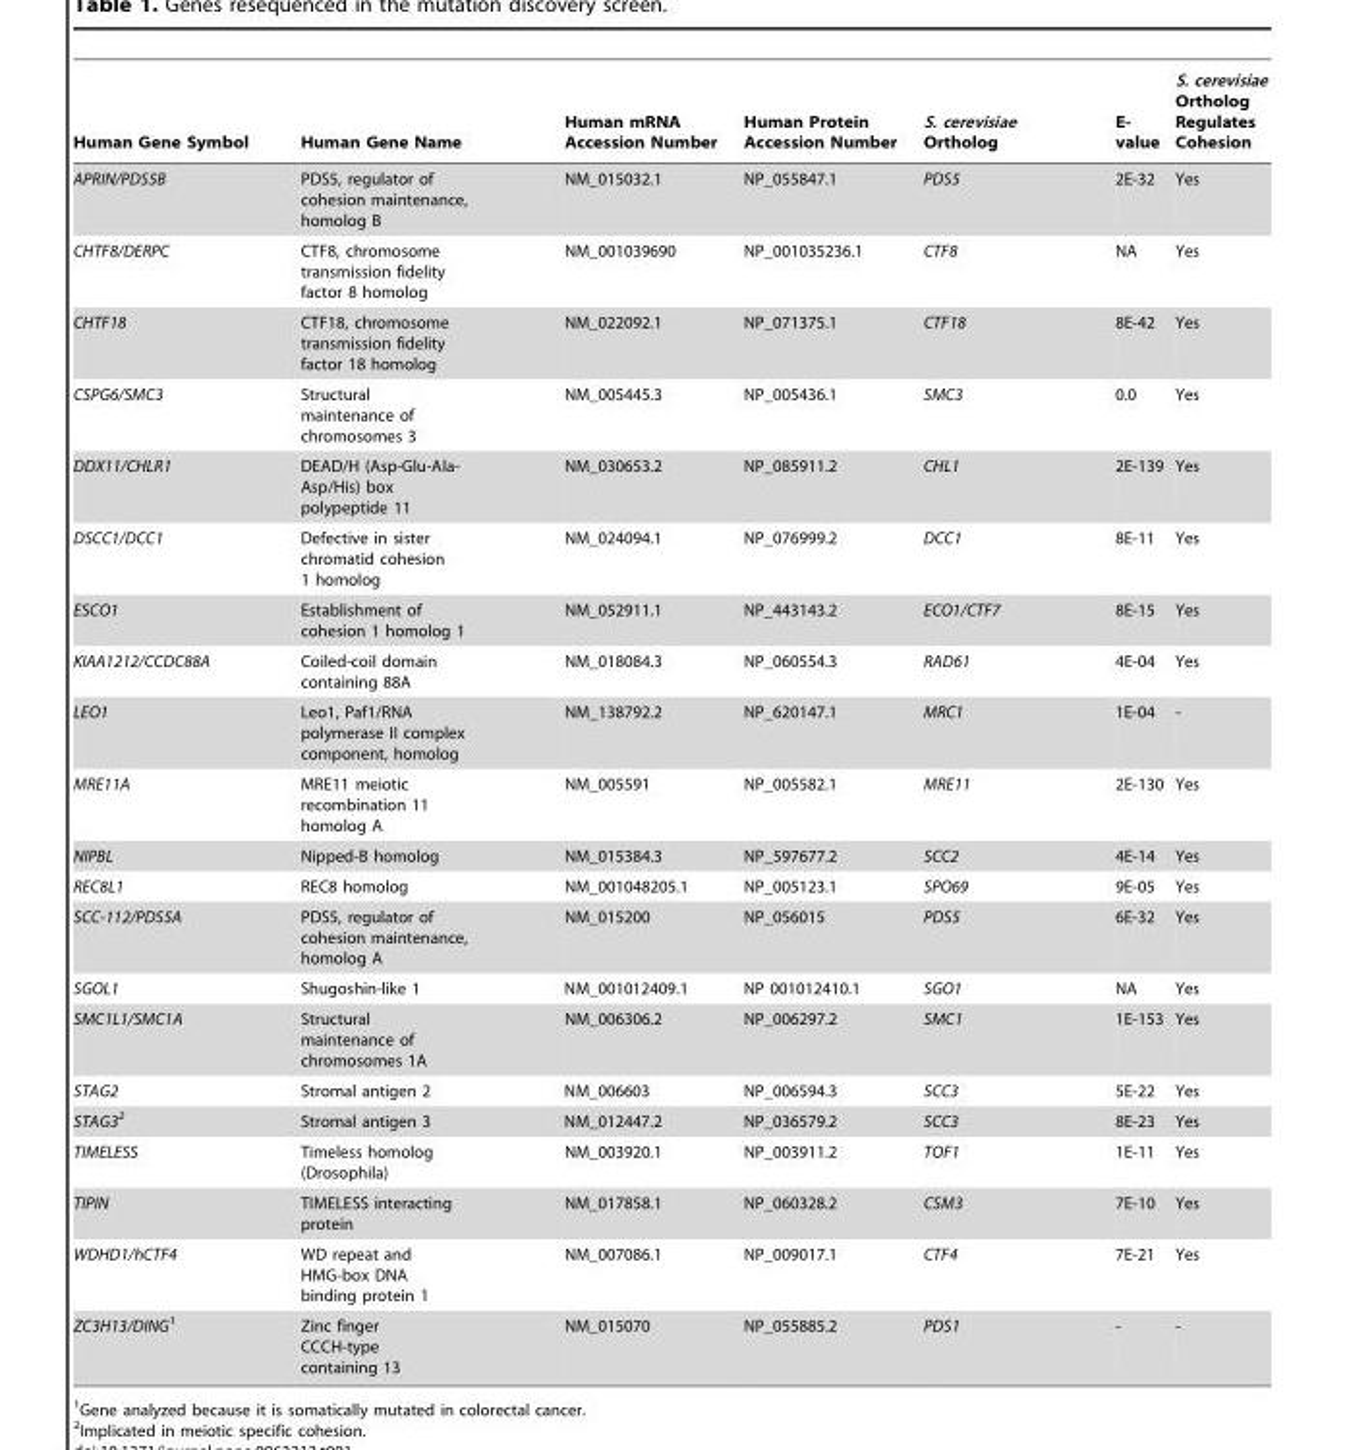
<table><thead><tr><td>Human Gene Symbol</td><td>Human Gene Name</td><td>Human mRNA Accession Number</td><td>Human Protein Accession Number</td><td>S. cerevisiae Ortholog</td><td>E- value</td><td>S. cerevisiae Ortholog Regulates Cohesion</td></tr></thead><tbody><tr><td>APRIN/PDS5B</td><td>PDS5, regulator of cohesion maintenance, homolog B</td><td>NM_015032.1</td><td>NP_055847.1</td><td>PDS5</td><td>2E-32</td><td>Yes</td></tr><tr><td>CHTF8/DERPC</td><td>CTF8, chromosome transmission fidelity factor 8 homolog</td><td>NM_001039690</td><td>NP_001035236.1</td><td>CTF8</td><td>NA</td><td>Yes</td></tr><tr><td>CHTF18</td><td>CTF18, chromosome transmission fidelity factor 18 homolog</td><td>NM_022092.1</td><td>NP_071375.1</td><td>CTF18</td><td>8E-42</td><td>Yes</td></tr><tr><td>CSPG6/SMC3</td><td>Structural maintenance of chromosomes 3</td><td>NM_005445.3</td><td>NP_005436.1</td><td>SMC3</td><td>0.0</td><td>Yes</td></tr><tr><td>DDX11/CHLR1</td><td>DEAD/H (Asp-Glu-Ala- Asp/His) box polypeptide 11</td><td>NM_030653.2</td><td>NP_085911.2</td><td>CHL1</td><td>2E-139</td><td>Yes</td></tr><tr><td>DSCC1/DCC1</td><td>Defective in sister chromatid cohesion 1 homolog</td><td>NM_024094.1</td><td>NP_076999.2</td><td>DCC1</td><td>8E-11</td><td>Yes</td></tr><tr><td>ESCO1</td><td>Establishment of cohesion 1 homolog 1</td><td>NM_052911.1</td><td>NP_443143.2</td><td>ECO1/CTF7</td><td>8E-15</td><td>Yes</td></tr><tr><td>KIAA1212/CCDC88A</td><td>Coiled-coil domain containing 88A</td><td>NM_018084.3</td><td>NP_060554.3</td><td>RAD61</td><td>4E-04</td><td>Yes</td></tr><tr><td>LEO1</td><td>Leo1, Paf1/RNA polymerase II complex component, homolog</td><td>NM_138792.2</td><td>NP_620147.1</td><td>MRC1</td><td>1E-04</td><td>-</td></tr><tr><td>MRE11A</td><td>MRE11 meiotic recombination 11 homolog A</td><td>NM_005591</td><td>NP_005582.1</td><td>MRE11</td><td>2E-130</td><td>Yes</td></tr><tr><td>NIPBL</td><td>Nipped-B homolog</td><td>NM_015384.3</td><td>NP_597677.2</td><td>SCC2</td><td>4E-14</td><td>Yes</td></tr><tr><td>REC8L1</td><td>REC8 homolog</td><td>NM_001048205.1</td><td>NP_005123.1</td><td>SPO69</td><td>9E-05</td><td>Yes</td></tr><tr><td>SCC-112/PDS5A</td><td>PDS5, regulator of cohesion maintenance, homolog A</td><td>NM_015200</td><td>NP_056015</td><td>PDS5</td><td>6E-32</td><td>Yes</td></tr><tr><td>SGOL1</td><td>Shugoshin-like 1</td><td>NM_001012409.1</td><td>NP 001012410.1</td><td>SGO1</td><td>NA</td><td>Yes</td></tr><tr><td>SMC1L1/SMC1A</td><td>Structural maintenance of chromosomes 1A</td><td>NM_006306.2</td><td>NP_006297.2</td><td>SMC1</td><td>1E-153</td><td>Yes</td></tr><tr><td>STAG2</td><td>Stromal antigen 2</td><td>NM_006603</td><td>NP_006594.3</td><td>SCC3</td><td>5E-22</td><td>Yes</td></tr><tr><td>STAG32</td><td>Stromal antigen 3</td><td>NM_012447.2</td><td>NP_036579.2</td><td>SCC3</td><td>8E-23</td><td>Yes</td></tr><tr><td>TIMELESS</td><td>Timeless homolog (Drosophila)</td><td>NM_003920.1</td><td>NP_003911.2</td><td>TOF1</td><td>1E-11</td><td>Yes</td></tr><tr><td>TIPIN</td><td>TIMELESS interacting protein</td><td>NM_017858.1</td><td>NP_060328.2</td><td>CSM3</td><td>7E-10</td><td>Yes</td></tr><tr><td>WDHD1/hCTF4</td><td>WD repeat and HMG-box DNA binding protein 1</td><td>NM_007086.1</td><td>NP_009017.1</td><td>CTF4</td><td>7E-21</td><td>Yes</td></tr><tr><td>ZC3H13/DING1</td><td>Zinc finger CCCH-type containing 13</td><td>NM_015070</td><td>NP_055885.2</td><td>PDS1</td><td>-</td><td>-</td></tr></tbody></table>